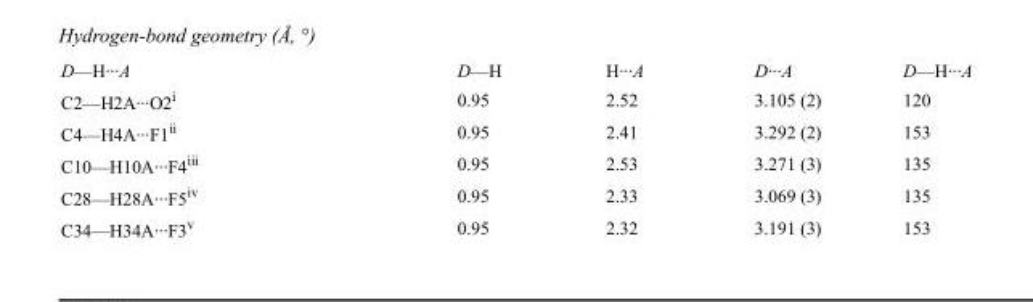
<table><tbody><tr><td>D—H···A</td><td>D—H</td><td>H···A</td><td>D···A</td><td>D—H···A</td></tr><tr><td>C2—H2A···O2<sup>i</sup></td><td>0.95</td><td>2.52</td><td>3.105 (2)</td><td>120</td></tr><tr><td>C4—H4A···F1<sup>ii</sup></td><td>0.95</td><td>2.41</td><td>3.292 (2)</td><td>153</td></tr><tr><td>C10—H10A···F4<sup>iii</sup></td><td>0.95</td><td>2.53</td><td>3.271 (3)</td><td>135</td></tr><tr><td>C28—H28A···F5<sup>iv</sup></td><td>0.95</td><td>2.33</td><td>3.069 (3)</td><td>135</td></tr><tr><td>C34—H34A···F3<sup>v</sup></td><td>0.95</td><td>2.32</td><td>3.191 (3)</td><td>153</td></tr></tbody></table>